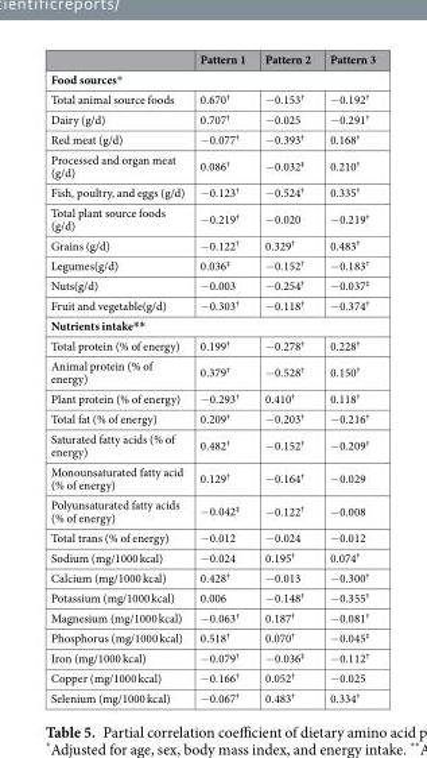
<table><thead><tr><td></td><td>Pattern 1</td><td>Pattern 2</td><td>Pattern 3</td></tr></thead><tbody><tr><td colspan="4">Food sources*</td></tr><tr><td>Total animal source foods</td><td>0.670<sup>†</sup></td><td>−0.153<sup>†</sup></td><td>−0.192<sup>†</sup></td></tr><tr><td>Dairy (g/d)</td><td>0.707<sup>†</sup></td><td>−0.025</td><td>−0.291<sup>†</sup></td></tr><tr><td>Red meat (g/d)</td><td>−0.077<sup>†</sup></td><td>−0.393<sup>†</sup></td><td>0.168<sup>†</sup></td></tr><tr><td>Processed and organ meat (g/d)</td><td>0.086<sup>†</sup></td><td>−0.032<sup>‡</sup></td><td>0.210<sup>†</sup></td></tr><tr><td>Fish, poultry, and eggs (g/d)</td><td>−0.123<sup>†</sup></td><td>−0.524<sup>†</sup></td><td>0.335<sup>†</sup></td></tr><tr><td>Total plant source foods (g/d)</td><td>−0.219<sup>†</sup></td><td>−0.020</td><td>−0.219<sup>†</sup></td></tr><tr><td>Grains (g/d)</td><td>−0.122<sup>†</sup></td><td>0.329<sup>†</sup></td><td>0.483<sup>†</sup></td></tr><tr><td>Legumes(g/d)</td><td>0.036<sup>‡</sup></td><td>−0.152<sup>†</sup></td><td>−0.183<sup>†</sup></td></tr><tr><td>Nuts(g/d)</td><td>−0.003</td><td>−0.254<sup>†</sup></td><td>−0.037<sup>‡</sup></td></tr><tr><td>Fruit and vegetable(g/d)</td><td>−0.303<sup>†</sup></td><td>−0.118<sup>†</sup></td><td>−0.374<sup>†</sup></td></tr><tr><td colspan="4">Nutrients intake**</td></tr><tr><td>Total protein (% of energy)</td><td>0.199<sup>†</sup></td><td>−0.278<sup>†</sup></td><td>0.228<sup>†</sup></td></tr><tr><td>Animal protein (% of energy)</td><td>0.379<sup>†</sup></td><td>−0.528<sup>†</sup></td><td>0.150<sup>†</sup></td></tr><tr><td>Plant protein (% of energy)</td><td>−0.293<sup>†</sup></td><td>0.410<sup>†</sup></td><td>0.118<sup>†</sup></td></tr><tr><td>Total fat (% of energy)</td><td>0.209<sup>†</sup></td><td>−0.203<sup>†</sup></td><td>−0.216<sup>†</sup></td></tr><tr><td>Saturated fatty acids (% of energy)</td><td>0.482<sup>†</sup></td><td>−0.152<sup>†</sup></td><td>−0.209<sup>†</sup></td></tr><tr><td>Monounsaturated fatty acid (% of energy)</td><td>0.129<sup>†</sup></td><td>−0.164<sup>†</sup></td><td>−0.029</td></tr><tr><td>Polyunsaturated fatty acids (% of energy)</td><td>−0.042<sup>‡</sup></td><td>−0.122<sup>†</sup></td><td>−0.008</td></tr><tr><td>Total trans (% of energy)</td><td>−0.012</td><td>−0.024</td><td>−0.012</td></tr><tr><td>Sodium (mg/1000 kcal)</td><td>−0.024</td><td>0.195<sup>†</sup></td><td>0.074<sup>†</sup></td></tr><tr><td>Calcium (mg/1000 kcal)</td><td>0.428<sup>†</sup></td><td>−0.013</td><td>−0.300<sup>†</sup></td></tr><tr><td>Potassium (mg/1000 kcal)</td><td>0.006</td><td>−0.148<sup>†</sup></td><td>−0.355<sup>†</sup></td></tr><tr><td>Magnesium (mg/1000 kcal)</td><td>−0.063<sup>†</sup></td><td>0.187<sup>†</sup></td><td>−0.081<sup>†</sup></td></tr><tr><td>Phosphorus (mg/1000 kcal)</td><td>0.518<sup>†</sup></td><td>0.070<sup>†</sup></td><td>−0.045<sup>‡</sup></td></tr><tr><td>Iron (mg/1000 kcal)</td><td>−0.079<sup>†</sup></td><td>−0.036<sup>‡</sup></td><td>−0.112<sup>†</sup></td></tr><tr><td>Copper (mg/1000 kcal)</td><td>−0.166<sup>†</sup></td><td>0.052<sup>†</sup></td><td>−0.025</td></tr><tr><td>Selenium (mg/1000 kcal)</td><td>−0.067<sup>†</sup></td><td>0.483<sup>†</sup></td><td>0.334<sup>†</sup></td></tr></tbody></table>